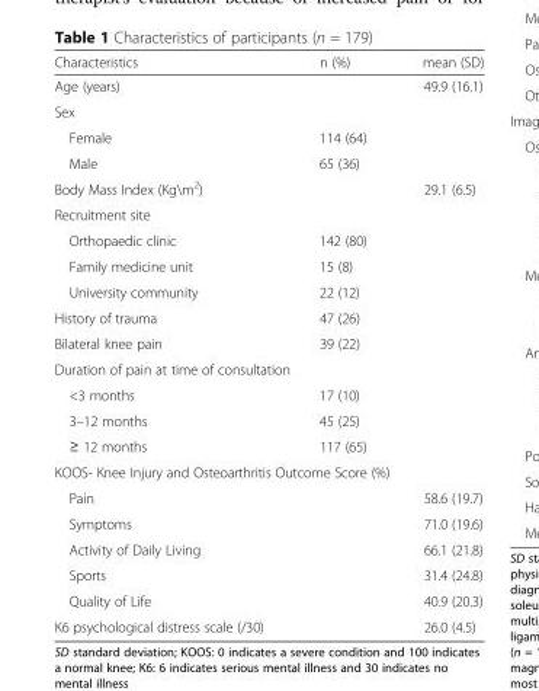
<table><thead><tr><td>Characteristics</td><td>n (%)</td><td>mean (SD)</td></tr></thead><tbody><tr><td>Age (years)</td><td></td><td>49.9 (16.1)</td></tr><tr><td colspan="3">Sex</td></tr><tr><td>Female</td><td>114 (64)</td><td></td></tr><tr><td>Male</td><td>65 (36)</td><td></td></tr><tr><td>Body Mass Index (Kg\m<sup>2</sup>)</td><td></td><td>29.1 (6.5)</td></tr><tr><td colspan="3">Recruitment site</td></tr><tr><td>Orthopaedic clinic</td><td>142 (80)</td><td></td></tr><tr><td>Family medicine unit</td><td>15 (8)</td><td></td></tr><tr><td>University community</td><td>22 (12)</td><td></td></tr><tr><td>History of trauma</td><td>47 (26)</td><td></td></tr><tr><td>Bilateral knee pain</td><td>39 (22)</td><td></td></tr><tr><td colspan="3">Duration of pain at time of consultation</td></tr><tr><td>&lt;3 months</td><td>17 (10)</td><td></td></tr><tr><td>3–12 months</td><td>45 (25)</td><td></td></tr><tr><td>≥ 12 months</td><td>117 (65)</td><td></td></tr><tr><td colspan="3">KOOS- Knee Injury and Osteoarthritis Outcome Score (%)</td></tr><tr><td>Pain</td><td></td><td>58.6 (19.7)</td></tr><tr><td>Symptoms</td><td></td><td>71.0 (19.6)</td></tr><tr><td>Activity of Daily Living</td><td></td><td>66.1 (21.8)</td></tr><tr><td>Sports</td><td></td><td>31.4 (24.8)</td></tr><tr><td>Quality of Life</td><td></td><td>40.9 (20.3)</td></tr><tr><td>K6 psychological distress scale (/30)</td><td></td><td>26.0 (4.5)</td></tr></tbody></table>